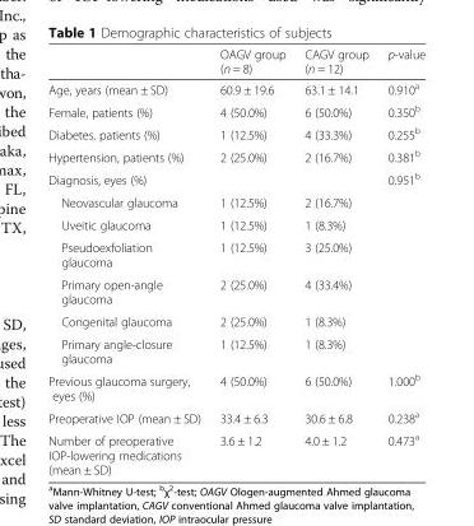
<table><thead><tr><td></td><td>OAGV group (n = 8)</td><td>CAGV group (n = 12)</td><td>p-value</td></tr></thead><tbody><tr><td>Age, years (mean ± SD)</td><td>60.9 ± 19.6</td><td>63.1 ± 14.1</td><td>0.910<sup>a</sup></td></tr><tr><td>Female, patients (%)</td><td>4 (50.0%)</td><td>6 (50.0%)</td><td>0.350<sup>b</sup></td></tr><tr><td>Diabetes, patients (%)</td><td>1 (12.5%)</td><td>4 (33.3%)</td><td>0.255<sup>b</sup></td></tr><tr><td>Hypertension, patients (%)</td><td>2 (25.0%)</td><td>2 (16.7%)</td><td>0.381<sup>b</sup></td></tr><tr><td>Diagnosis, eyes (%)</td><td></td><td></td><td>0.951<sup>b</sup></td></tr><tr><td>Neovascular glaucoma</td><td>1 (12.5%)</td><td>2 (16.7%)</td><td></td></tr><tr><td>Uveitic glaucoma</td><td>1 (12.5%)</td><td>1 (8.3%)</td><td></td></tr><tr><td>Pseudoexfoliation glaucoma</td><td>1 (12.5%)</td><td>3 (25.0%)</td><td></td></tr><tr><td>Primary open-angle glaucoma</td><td>2 (25.0%)</td><td>4 (33.4%)</td><td></td></tr><tr><td>Congenital glaucoma</td><td>2 (25.0%)</td><td>1 (8.3%)</td><td></td></tr><tr><td>Primary angle-closure glaucoma</td><td>1 (12.5%)</td><td>1 (8.3%)</td><td></td></tr><tr><td>Previous glaucoma surgery, eyes (%)</td><td>4 (50.0%)</td><td>6 (50.0%)</td><td>1.000<sup>b</sup></td></tr><tr><td>Preoperative IOP (mean ± SD)</td><td>33.4 ± 6.3</td><td>30.6 ± 6.8</td><td>0.238<sup>a</sup></td></tr><tr><td>Number of preoperative IOP-lowering medications (mean ± SD)</td><td>3.6 ± 1.2</td><td>4.0 ± 1.2</td><td>0.473<sup>a</sup></td></tr></tbody></table>